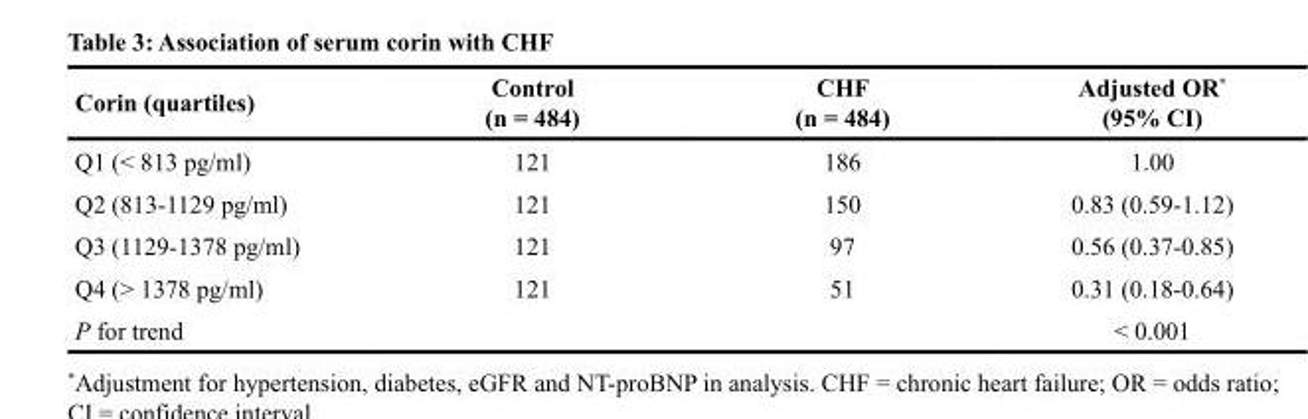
<table><thead><tr><td>Corin (quartiles)</td><td>Control (n = 484)</td><td>CHF (n = 484)</td><td>Adjusted OR* (95% CI)</td></tr></thead><tbody><tr><td>Q1 (&lt; 813 pg/ml)</td><td>121</td><td>186</td><td>1.00</td></tr><tr><td>Q2 (813-1129 pg/ml)</td><td>121</td><td>150</td><td>0.83 (0.59-1.12)</td></tr><tr><td>Q3 (1129-1378 pg/ml)</td><td>121</td><td>97</td><td>0.56 (0.37-0.85)</td></tr><tr><td>Q4 (&gt; 1378 pg/ml)</td><td>121</td><td>51</td><td>0.31 (0.18-0.64)</td></tr><tr><td>P for trend</td><td></td><td></td><td>&lt; 0.001</td></tr></tbody></table>